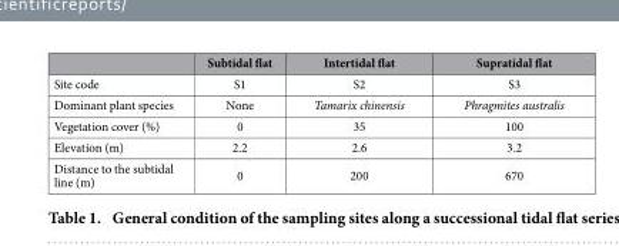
<table><thead><tr><td></td><td>Subtidal flat</td><td>Intertidal flat</td><td>Supratidal flat</td></tr></thead><tbody><tr><td>Site code</td><td>S1</td><td>S2</td><td>S3</td></tr><tr><td>Dominant plant species</td><td>None</td><td>Tamarix chinensis</td><td>Phragmites australis</td></tr><tr><td>Vegetation cover (%)</td><td>0</td><td>35</td><td>100</td></tr><tr><td>Elevation (m)</td><td>2.2</td><td>2.6</td><td>3.2</td></tr><tr><td>Distance to the subtidal line (m)</td><td>0</td><td>200</td><td>670</td></tr></tbody></table>